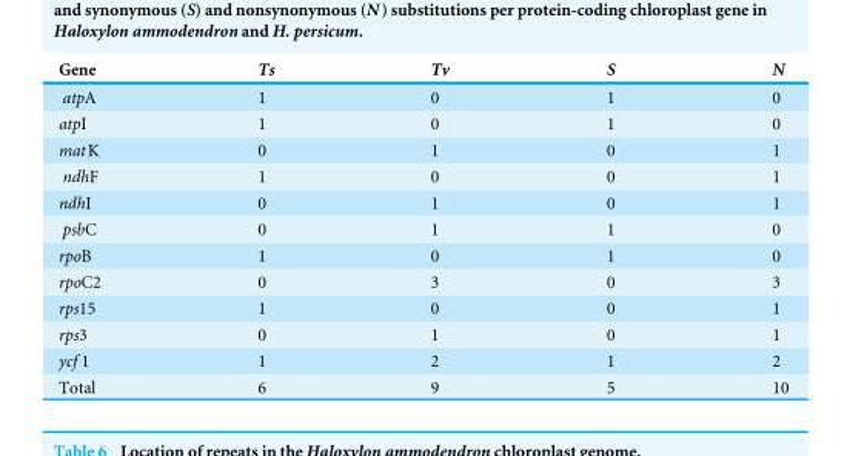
<table><thead><tr><td>Gene</td><td>Ts</td><td>Tv</td><td>S</td><td>N</td></tr></thead><tbody><tr><td>atpA</td><td>1</td><td>0</td><td>1</td><td>0</td></tr><tr><td>atpI</td><td>1</td><td>0</td><td>1</td><td>0</td></tr><tr><td>matK</td><td>0</td><td>1</td><td>0</td><td>1</td></tr><tr><td>ndhF</td><td>1</td><td>0</td><td>0</td><td>1</td></tr><tr><td>ndhI</td><td>0</td><td>1</td><td>0</td><td>1</td></tr><tr><td>psbC</td><td>0</td><td>1</td><td>1</td><td>0</td></tr><tr><td>rpoB</td><td>1</td><td>0</td><td>1</td><td>0</td></tr><tr><td>rpoC2</td><td>0</td><td>3</td><td>0</td><td>3</td></tr><tr><td>rps15</td><td>1</td><td>0</td><td>0</td><td>1</td></tr><tr><td>rps3</td><td>0</td><td>1</td><td>0</td><td>1</td></tr><tr><td>ycf 1</td><td>1</td><td>2</td><td>1</td><td>2</td></tr><tr><td>Total</td><td>6</td><td>9</td><td>5</td><td>10</td></tr></tbody></table>